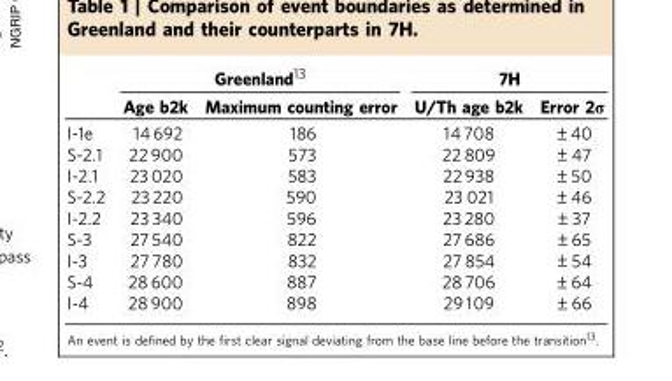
<table><thead><tr><td rowspan="2"></td><td colspan="2">Greenland<sup>13</sup></td><td colspan="2">7H</td></tr><tr><td>Age b2k</td><td>Maximum counting error</td><td>U/Th age b2k</td><td>Error 2σ</td></tr></thead><tbody><tr><td>I-1e</td><td>14 692</td><td>186</td><td>14 708</td><td>±40</td></tr><tr><td>S-2.1</td><td>22 900</td><td>573</td><td>22 809</td><td>±47</td></tr><tr><td>I-2.1</td><td>23 020</td><td>583</td><td>22 938</td><td>±50</td></tr><tr><td>S-2.2</td><td>23 220</td><td>590</td><td>23 021</td><td>±46</td></tr><tr><td>I-2.2</td><td>23 340</td><td>596</td><td>23 280</td><td>±37</td></tr><tr><td>S-3</td><td>27 540</td><td>822</td><td>27 686</td><td>±65</td></tr><tr><td>I-3</td><td>27 780</td><td>832</td><td>27 854</td><td>±54</td></tr><tr><td>S-4</td><td>28 600</td><td>887</td><td>28 706</td><td>±64</td></tr><tr><td>I-4</td><td>28 900</td><td>898</td><td>29 109</td><td>±66</td></tr></tbody></table>